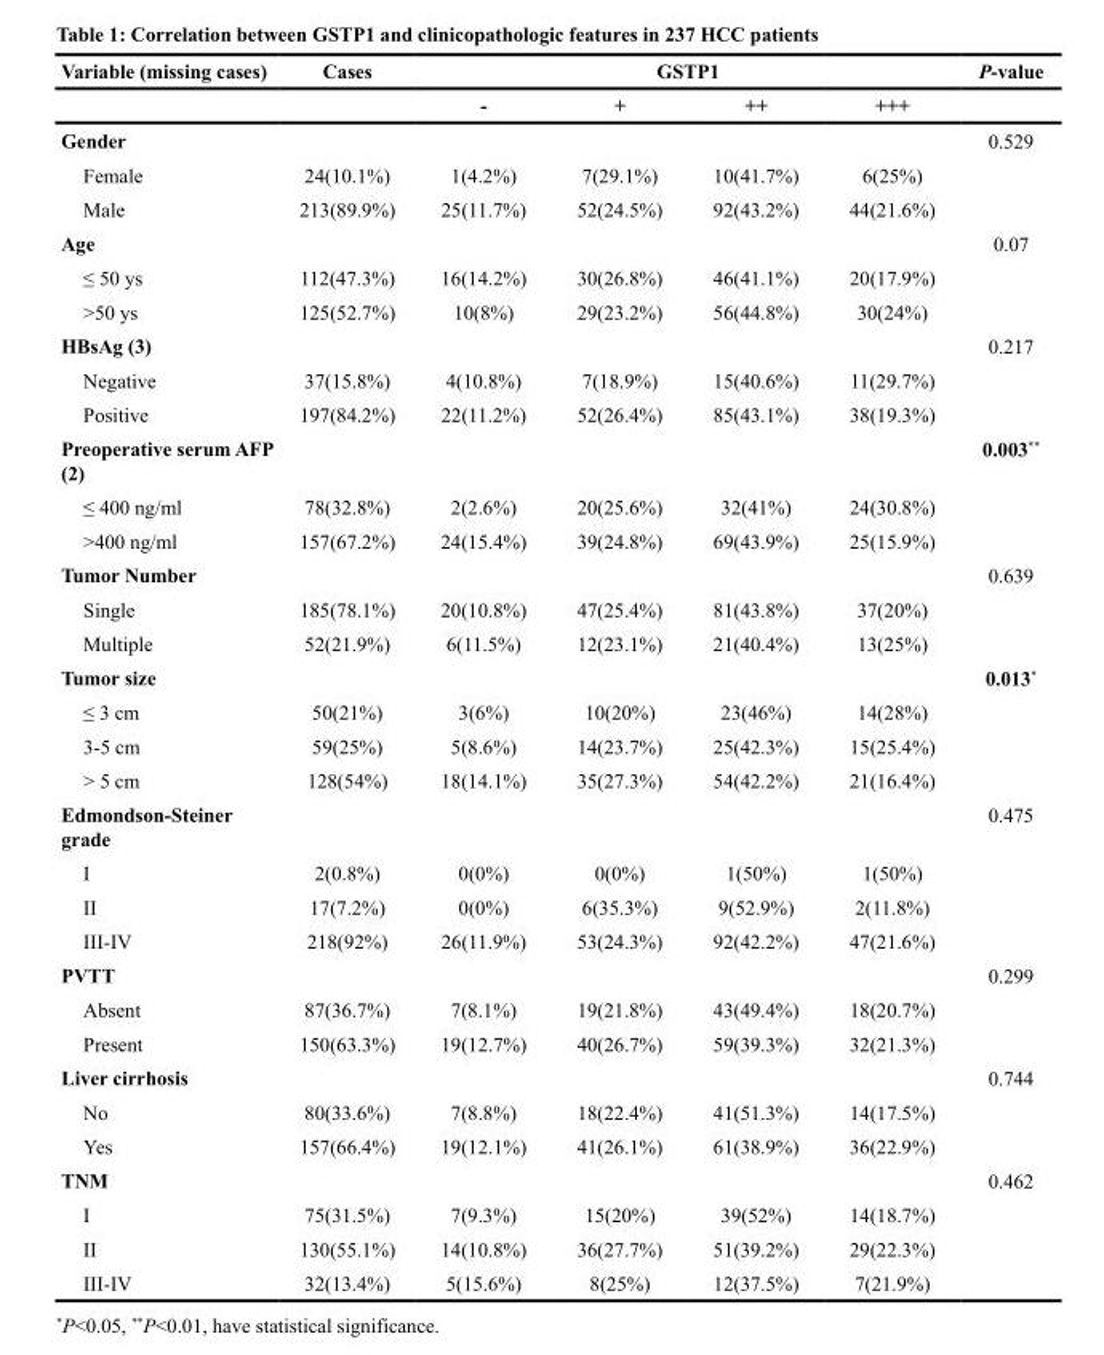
<table><thead><tr><td rowspan="2">Variable (missing cases)</td><td rowspan="2">Cases</td><td colspan="4">GSTP1</td><td rowspan="2">P-value</td></tr><tr><td>-</td><td>+</td><td>++</td><td>+++</td></tr></thead><tbody><tr><td>Gender</td><td></td><td></td><td></td><td></td><td></td><td>0.529</td></tr><tr><td>Female</td><td>24(10.1%)</td><td>1(4.2%)</td><td>7(29.1%)</td><td>10(41.7%)</td><td>6(25%)</td><td></td></tr><tr><td>Male</td><td>213(89.9%)</td><td>25(11.7%)</td><td>52(24.5%)</td><td>92(43.2%)</td><td>44(21.6%)</td><td></td></tr><tr><td>Age</td><td></td><td></td><td></td><td></td><td></td><td>0.07</td></tr><tr><td>≤ 50 ys</td><td>112(47.3%)</td><td>16(14.2%)</td><td>30(26.8%)</td><td>46(41.1%)</td><td>20(17.9%)</td><td></td></tr><tr><td>&gt;50 ys</td><td>125(52.7%)</td><td>10(8%)</td><td>29(23.2%)</td><td>56(44.8%)</td><td>30(24%)</td><td></td></tr><tr><td>HBsAg (3)</td><td></td><td></td><td></td><td></td><td></td><td>0.217</td></tr><tr><td>Negative</td><td>37(15.8%)</td><td>4(10.8%)</td><td>7(18.9%)</td><td>15(40.6%)</td><td>11(29.7%)</td><td></td></tr><tr><td>Positive</td><td>197(84.2%)</td><td>22(11.2%)</td><td>52(26.4%)</td><td>85(43.1%)</td><td>38(19.3%)</td><td></td></tr><tr><td>Preoperative serum AFP (2)</td><td></td><td></td><td></td><td></td><td></td><td>0.003**</td></tr><tr><td>≤ 400 ng/ml</td><td>78(32.8%)</td><td>2(2.6%)</td><td>20(25.6%)</td><td>32(41%)</td><td>24(30.8%)</td><td></td></tr><tr><td>&gt;400 ng/ml</td><td>157(67.2%)</td><td>24(15.4%)</td><td>39(24.8%)</td><td>69(43.9%)</td><td>25(15.9%)</td><td></td></tr><tr><td>Tumor Number</td><td></td><td></td><td></td><td></td><td></td><td>0.639</td></tr><tr><td>Single</td><td>185(78.1%)</td><td>20(10.8%)</td><td>47(25.4%)</td><td>81(43.8%)</td><td>37(20%)</td><td></td></tr><tr><td>Multiple</td><td>52(21.9%)</td><td>6(11.5%)</td><td>12(23.1%)</td><td>21(40.4%)</td><td>13(25%)</td><td></td></tr><tr><td>Tumor size</td><td></td><td></td><td></td><td></td><td></td><td>0.013*</td></tr><tr><td>≤ 3 cm</td><td>50(21%)</td><td>3(6%)</td><td>10(20%)</td><td>23(46%)</td><td>14(28%)</td><td></td></tr><tr><td>3-5 cm</td><td>59(25%)</td><td>5(8.6%)</td><td>14(23.7%)</td><td>25(42.3%)</td><td>15(25.4%)</td><td></td></tr><tr><td>&gt; 5 cm</td><td>128(54%)</td><td>18(14.1%)</td><td>35(27.3%)</td><td>54(42.2%)</td><td>21(16.4%)</td><td></td></tr><tr><td>Edmondson-Steiner grade</td><td></td><td></td><td></td><td></td><td></td><td>0.475</td></tr><tr><td>I</td><td>2(0.8%)</td><td>0(0%)</td><td>0(0%)</td><td>1(50%)</td><td>1(50%)</td><td></td></tr><tr><td>II</td><td>17(7.2%)</td><td>0(0%)</td><td>6(35.3%)</td><td>9(52.9%)</td><td>2(11.8%)</td><td></td></tr><tr><td>III-IV</td><td>218(92%)</td><td>26(11.9%)</td><td>53(24.3%)</td><td>92(42.2%)</td><td>47(21.6%)</td><td></td></tr><tr><td>PVTT</td><td></td><td></td><td></td><td></td><td></td><td>0.299</td></tr><tr><td>Absent</td><td>87(36.7%)</td><td>7(8.1%)</td><td>19(21.8%)</td><td>43(49.4%)</td><td>18(20.7%)</td><td></td></tr><tr><td>Present</td><td>150(63.3%)</td><td>19(12.7%)</td><td>40(26.7%)</td><td>59(39.3%)</td><td>32(21.3%)</td><td></td></tr><tr><td>Liver cirrhosis</td><td></td><td></td><td></td><td></td><td></td><td>0.744</td></tr><tr><td>No</td><td>80(33.6%)</td><td>7(8.8%)</td><td>18(22.4%)</td><td>41(51.3%)</td><td>14(17.5%)</td><td></td></tr><tr><td>Yes</td><td>157(66.4%)</td><td>19(12.1%)</td><td>41(26.1%)</td><td>61(38.9%)</td><td>36(22.9%)</td><td></td></tr><tr><td>TNM</td><td></td><td></td><td></td><td></td><td></td><td>0.462</td></tr><tr><td>I</td><td>75(31.5%)</td><td>7(9.3%)</td><td>15(20%)</td><td>39(52%)</td><td>14(18.7%)</td><td></td></tr><tr><td>II</td><td>130(55.1%)</td><td>14(10.8%)</td><td>36(27.7%)</td><td>51(39.2%)</td><td>29(22.3%)</td><td></td></tr><tr><td>III-IV</td><td>32(13.4%)</td><td>5(15.6%)</td><td>8(25%)</td><td>12(37.5%)</td><td>7(21.9%)</td><td></td></tr></tbody></table>